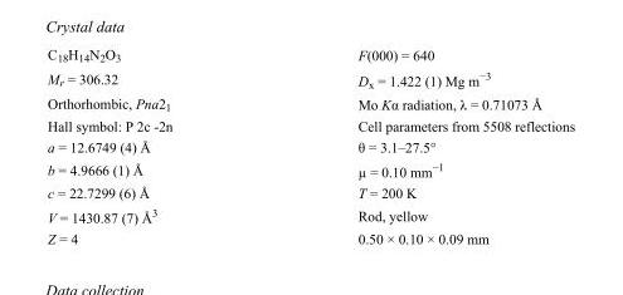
<table><tbody><tr><td>C<sub>18</sub>H<sub>14</sub>N<sub>2</sub>O<sub>3</sub></td><td>F(000) = 640</td></tr><tr><td>M<sub>r</sub> = 306.32</td><td>D<sub>x</sub> = 1.422 (1) Mg m<sup>−3</sup></td></tr><tr><td>Orthorhombic, Pna2<sub>1</sub></td><td>Mo Kα radiation, λ = 0.71073 Å</td></tr><tr><td>Hall symbol: P 2c -2n</td><td>Cell parameters from 5508 reflections</td></tr><tr><td>a = 12.6749 (4) Å</td><td>θ = 3.1–27.5°</td></tr><tr><td>b = 4.9666 (1) Å</td><td>µ = 0.10 mm<sup>−1</sup></td></tr><tr><td>c = 22.7299 (6) Å</td><td>T = 200 K</td></tr><tr><td>V = 1430.87 (7) Å<sup>3</sup></td><td>Rod, yellow</td></tr><tr><td>Z = 4</td><td>0.50 × 0.10 × 0.09 mm</td></tr></tbody></table>